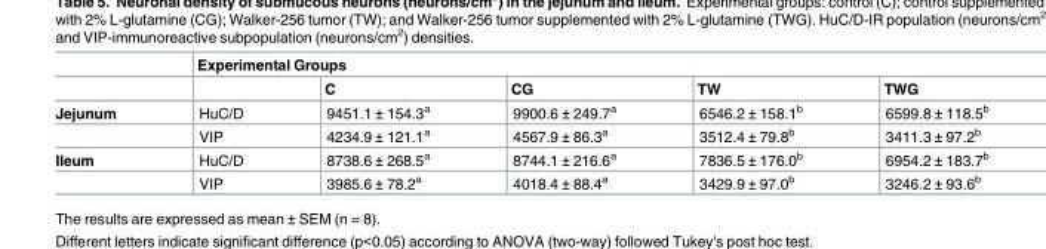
<table><thead><tr><td rowspan="2"></td><td colspan="5">Experimental Groups</td></tr><tr><td></td><td>C</td><td>CG</td><td>TW</td><td>TWG</td></tr></thead><tbody><tr><td rowspan="2">Jejunum</td><td>HuC/D</td><td>9451.1 ± 154.3<sup>a</sup></td><td>9900.6 ± 249.7<sup>a</sup></td><td>6546.2 ± 158.1<sup>b</sup></td><td>6599.8 ± 118.5<sup>b</sup></td></tr><tr><td>VIP</td><td>4234.9 ± 121.1<sup>a</sup></td><td>4567.9 ± 86.3<sup>a</sup></td><td>3512.4 ± 79.8<sup>b</sup></td><td>3411.3 ± 97.2<sup>b</sup></td></tr><tr><td rowspan="2">Ileum</td><td>HuC/D</td><td>8738.6 ± 268.5<sup>a</sup></td><td>8744.1 ± 216.6<sup>a</sup></td><td>7836.5 ± 176.0<sup>b</sup></td><td>6954.2 ± 183.7<sup>b</sup></td></tr><tr><td>VIP</td><td>3985.6 ± 78.2<sup>a</sup></td><td>4018.4 ± 88.4<sup>a</sup></td><td>3429.9 ± 97.0<sup>b</sup></td><td>3246.2 ± 93.6<sup>b</sup></td></tr></tbody></table>